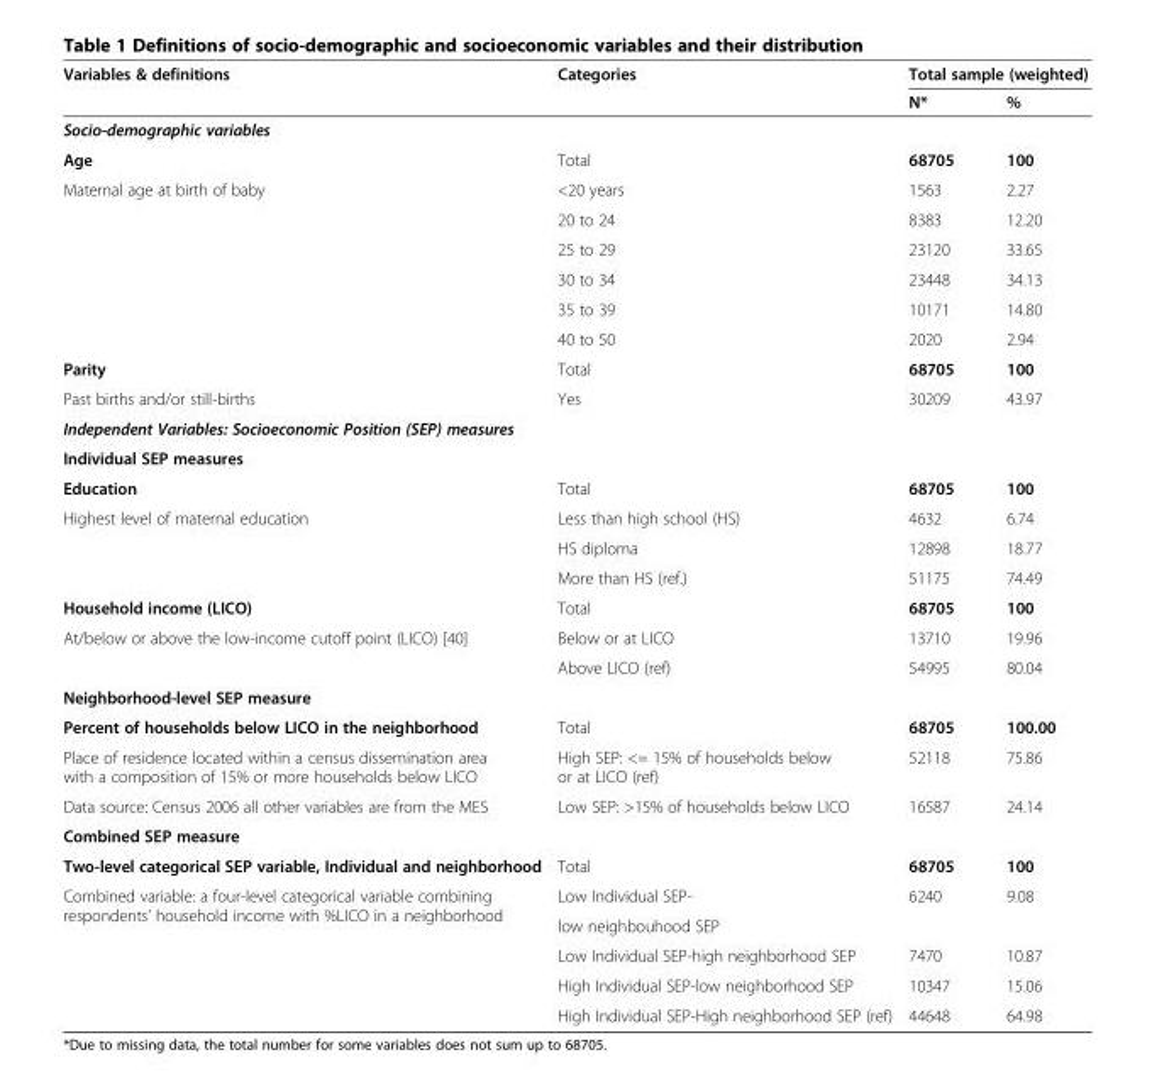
<table><thead><tr><td rowspan="2">Variables &amp; definitions</td><td rowspan="2">Categories</td><td colspan="2">Total sample (weighted)</td></tr><tr><td>N*</td><td>%</td></tr></thead><tbody><tr><td colspan="4">Socio-demographic variables</td></tr><tr><td>Age</td><td>Total</td><td>68705</td><td>100</td></tr><tr><td rowspan="6">Maternal age at birth of baby</td><td>&lt;20 years</td><td>1563</td><td>2.27</td></tr><tr><td>20 to 24</td><td>8383</td><td>12.20</td></tr><tr><td>25 to 29</td><td>23120</td><td>33.65</td></tr><tr><td>30 to 34</td><td>23448</td><td>34.13</td></tr><tr><td>35 to 39</td><td>10171</td><td>14.80</td></tr><tr><td>40 to 50</td><td>2020</td><td>2.94</td></tr><tr><td>Parity</td><td>Total</td><td>68705</td><td>100</td></tr><tr><td>Past births and/or still-births</td><td>Yes</td><td>30209</td><td>43.97</td></tr><tr><td colspan="4">Independent Variables: Socioeconomic Position (SEP) measures</td></tr><tr><td colspan="4">Individual SEP measures</td></tr><tr><td>Education</td><td>Total</td><td>68705</td><td>100</td></tr><tr><td rowspan="3">Highest level of maternal education</td><td>Less than high school (HS)</td><td>4632</td><td>6.74</td></tr><tr><td>HS diploma</td><td>12898</td><td>18.77</td></tr><tr><td>More than HS (ref.)</td><td>51175</td><td>74.49</td></tr><tr><td>Household income (LICO)</td><td>Total</td><td>68705</td><td>100</td></tr><tr><td rowspan="2">At/below or above the low-income cutoff point (LICO) [40]</td><td>Below or at LICO</td><td>13710</td><td>19.96</td></tr><tr><td>Above LICO (ref)</td><td>54995</td><td>80.04</td></tr><tr><td colspan="4">Neighborhood-level SEP measure</td></tr><tr><td>Percent of households below LICO in the neighborhood</td><td>Total</td><td>68705</td><td>100.00</td></tr><tr><td>Place of residence located within a census dissemination area with a composition of 15% or more households below LICO</td><td>High SEP: &lt;= 15% of households below or at LICO (ref)</td><td>52118</td><td>75.86</td></tr><tr><td>Data source: Census 2006 all other variables are from the MES</td><td>Low SEP: &gt;15% of households below LICO</td><td>16587</td><td>24.14</td></tr><tr><td colspan="4">Combined SEP measure</td></tr><tr><td>Two-level categorical SEP variable, Individual and neighborhood</td><td>Total</td><td>68705</td><td>100</td></tr><tr><td rowspan="5">Combined variable: a four-level categorical variable combining respondents’ household income with %LICO in a neighborhood</td><td>Low Individual SEP-</td><td rowspan="2">6240</td><td rowspan="2">9.08</td></tr><tr><td>low neighbouhood SEP</td></tr><tr><td>Low Individual SEP-high neighborhood SEP</td><td>7470</td><td>10.87</td></tr><tr><td>High Individual SEP-low neighborhood SEP</td><td>10347</td><td>15.06</td></tr><tr><td>High Individual SEP-High neighborhood SEP (ref)</td><td>44648</td><td>64.98</td></tr></tbody></table>